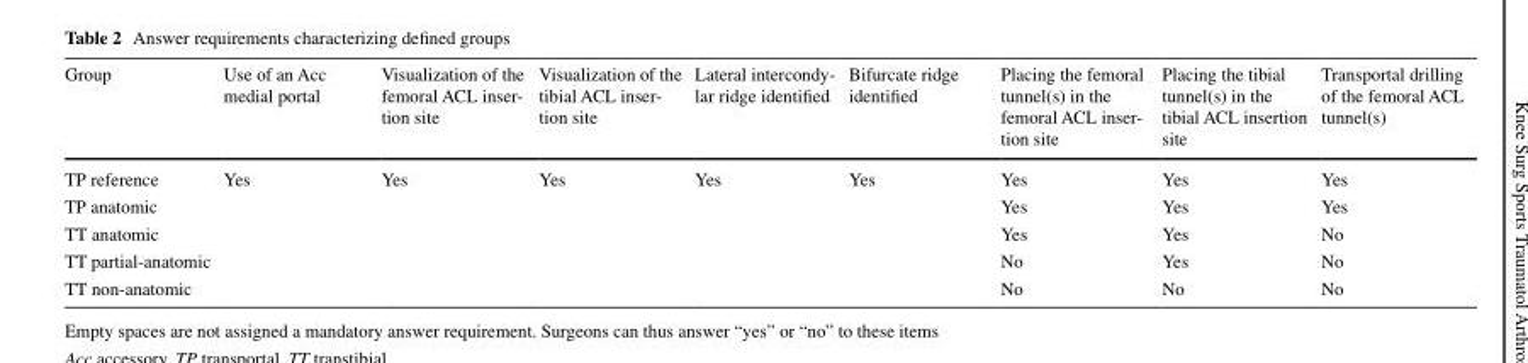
<table><thead><tr><td>Group</td><td>Use of an Acc medial portal</td><td>Visualization of the femoral ACL inser- tion site</td><td>Visualization of the tibial ACL inser- tion site</td><td>Lateral intercondy- lar ridge identified</td><td>Bifurcate ridge identified</td><td>Placing the femoral tunnel(s) in the femoral ACL inser- tion site</td><td>Placing the tibial tunnel(s) in the tibial ACL insertion site</td><td>Transportal drilling of the femoral ACL tunnel(s)</td></tr></thead><tbody><tr><td>TP reference</td><td>Yes</td><td>Yes</td><td>Yes</td><td>Yes</td><td>Yes</td><td>Yes</td><td>Yes</td><td>Yes</td></tr><tr><td>TP anatomic</td><td></td><td></td><td></td><td></td><td></td><td>Yes</td><td>Yes</td><td>Yes</td></tr><tr><td>TT anatomic</td><td></td><td></td><td></td><td></td><td></td><td>Yes</td><td>Yes</td><td>No</td></tr><tr><td>TT partial-anatomic</td><td></td><td></td><td></td><td></td><td></td><td>No</td><td>Yes</td><td>No</td></tr><tr><td>TT non-anatomic</td><td></td><td></td><td></td><td></td><td></td><td>No</td><td>No</td><td>No</td></tr></tbody></table>